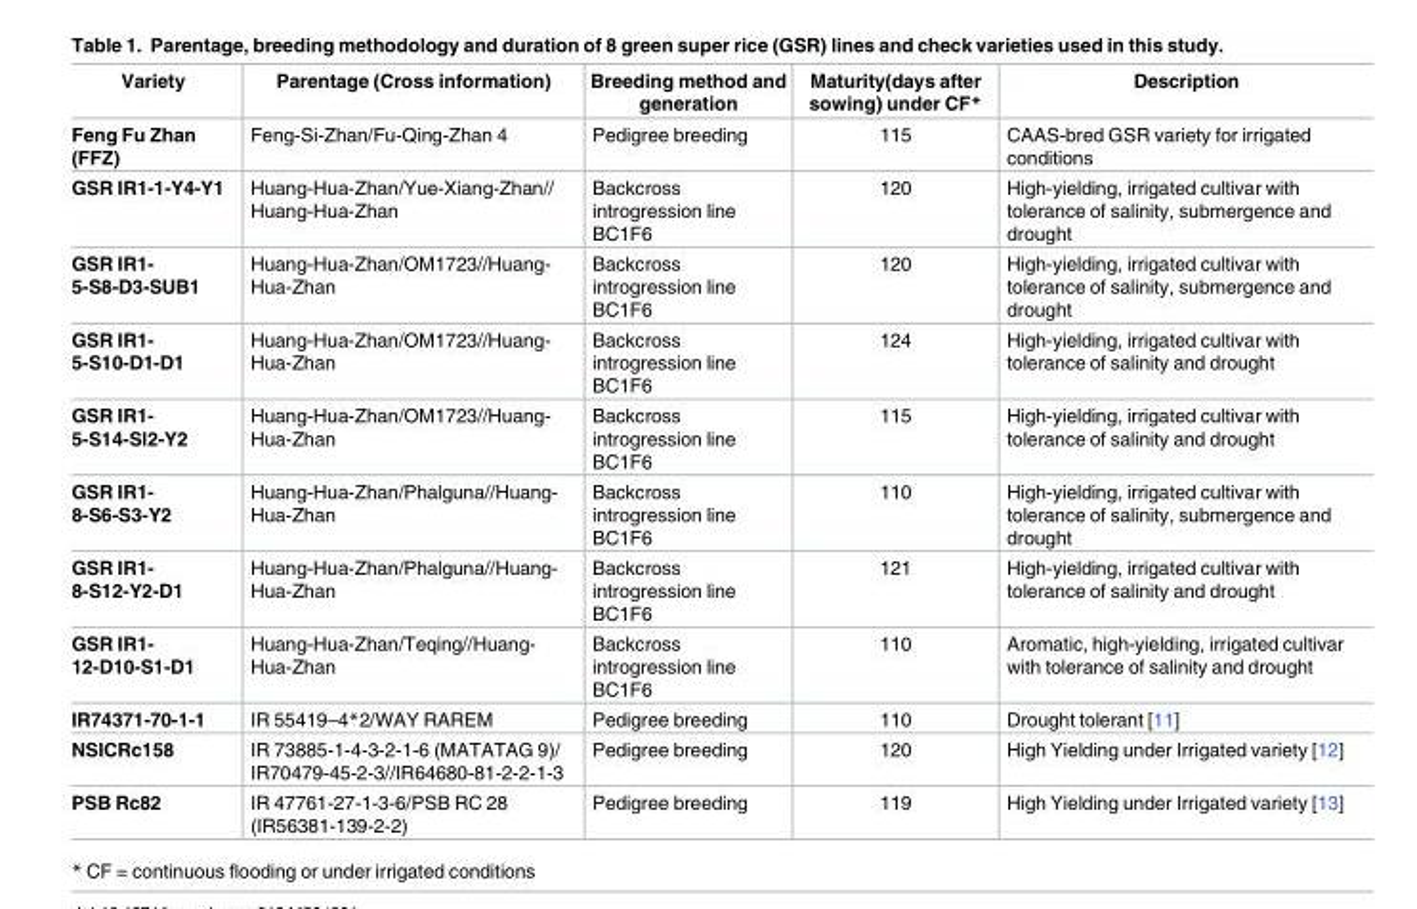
<table><thead><tr><td>Variety</td><td>Parentage (Cross information)</td><td>Breeding method and generation</td><td>Maturity(days after sowing) under CF*</td><td>Description</td></tr></thead><tbody><tr><td>Feng Fu Zhan (FFZ)</td><td>Feng-Si-Zhan/Fu-Qing-Zhan 4</td><td>Pedigree breeding</td><td>115</td><td>CAAS-bred GSR variety for irrigated conditions</td></tr><tr><td>GSR IR1-1-Y4-Y1</td><td>Huang-Hua-Zhan/Yue-Xiang-Zhan// Huang-Hua-Zhan</td><td>Backcross introgression line BC1F6</td><td>120</td><td>High-yielding, irrigated cultivar with tolerance of salinity, submergence and drought</td></tr><tr><td>GSR IR1- 5-S8-D3-SUB1</td><td>Huang-Hua-Zhan/OM1723//Huang- Hua-Zhan</td><td>Backcross introgression line BC1F6</td><td>120</td><td>High-yielding, irrigated cultivar with tolerance of salinity, submergence and drought</td></tr><tr><td>GSR IR1- 5-S10-D1-D1</td><td>Huang-Hua-Zhan/OM1723//Huang- Hua-Zhan</td><td>Backcross introgression line BC1F6</td><td>124</td><td>High-yielding, irrigated cultivar with tolerance of salinity and drought</td></tr><tr><td>GSR IR1- 5-S14-Sl2-Y2</td><td>Huang-Hua-Zhan/OM1723//Huang- Hua-Zhan</td><td>Backcross introgression line BC1F6</td><td>115</td><td>High-yielding, irrigated cultivar with tolerance of salinity and drought</td></tr><tr><td>GSR IR1- 8-S6-S3-Y2</td><td>Huang-Hua-Zhan/Phalguna//Huang- Hua-Zhan</td><td>Backcross introgression line BC1F6</td><td>110</td><td>High-yielding, irrigated cultivar with tolerance of salinity, submergence and drought</td></tr><tr><td>GSR IR1- 8-S12-Y2-D1</td><td>Huang-Hua-Zhan/Phalguna//Huang- Hua-Zhan</td><td>Backcross introgression line BC1F6</td><td>121</td><td>High-yielding, irrigated cultivar with tolerance of salinity and drought</td></tr><tr><td>GSR IR1- 12-D10-S1-D1</td><td>Huang-Hua-Zhan/Teqing//Huang- Hua-Zhan</td><td>Backcross introgression line BC1F6</td><td>110</td><td>Aromatic, high-yielding, irrigated cultivar with tolerance of salinity and drought</td></tr><tr><td>IR74371-70-1-1</td><td>IR 55419–4*2/WAY RAREM</td><td>Pedigree breeding</td><td>110</td><td>Drought tolerant [11]</td></tr><tr><td>NSICRc158</td><td>IR 73885-1-4-3-2-1-6 (MATATAG 9)/ IR70479-45-2-3//IR64680-81-2-2-1-3</td><td>Pedigree breeding</td><td>120</td><td>High Yielding under Irrigated variety [12]</td></tr><tr><td>PSB Rc82</td><td>IR 47761-27-1-3-6/PSB RC 28 (IR56381-139-2-2)</td><td>Pedigree breeding</td><td>119</td><td>High Yielding under Irrigated variety [13]</td></tr></tbody></table>